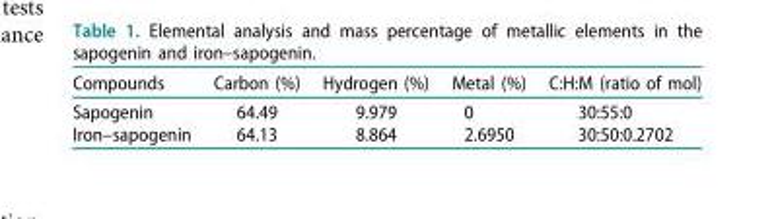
<table><thead><tr><td>Compounds</td><td>Carbon (%)</td><td>Hydrogen (%)</td><td>Metal (%)</td><td>C:H:M (ratio of mol)</td></tr></thead><tbody><tr><td>Sapogenin</td><td>64.49</td><td>9.979</td><td>0</td><td>30:55:0</td></tr><tr><td>Iron–sapogenin</td><td>64.13</td><td>8.864</td><td>2.6950</td><td>30:50:0.2702</td></tr></tbody></table>